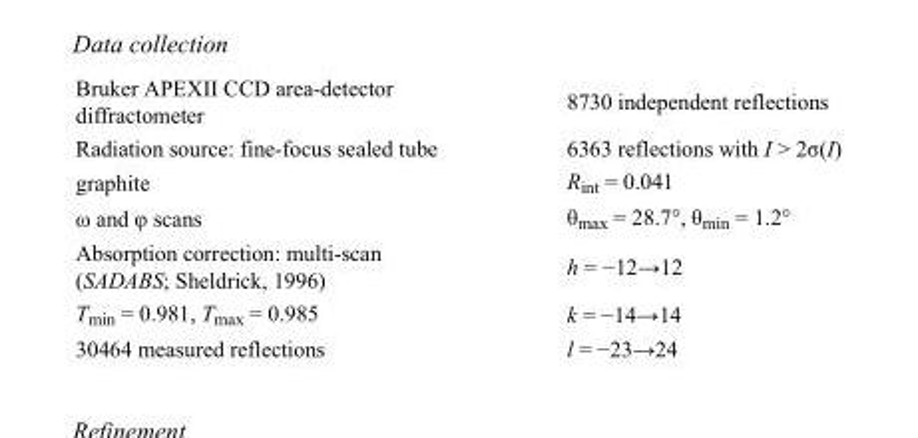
<table><tbody><tr><td>Bruker APEXII CCD area-detector diffractometer</td><td>8730 independent reflections</td></tr><tr><td>Radiation source: fine-focus sealed tube</td><td>6363 reflections with I &gt; 2σ(I)</td></tr><tr><td>graphite</td><td>R<sub>int</sub> = 0.041</td></tr><tr><td>ω and φ scans</td><td>θ<sub>max</sub> = 28.7°, θ<sub>min</sub> = 1.2°</td></tr><tr><td>Absorption correction: multi-scan (SADABS; Sheldrick, 1996)</td><td>h = −12→12</td></tr><tr><td>T<sub>min</sub> = 0.981, T<sub>max</sub> = 0.985</td><td>k = −14→14</td></tr><tr><td>30464 measured reflections</td><td>l = −23→24</td></tr></tbody></table>